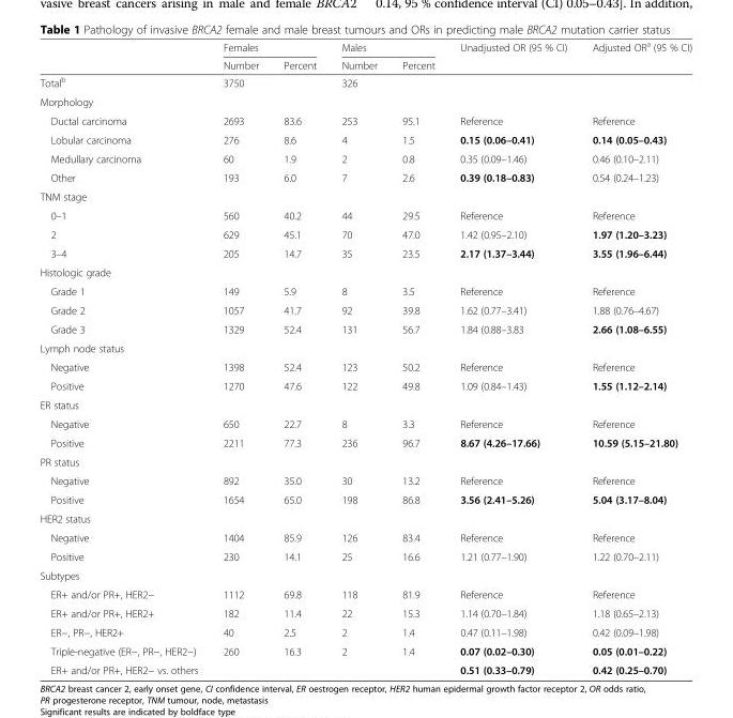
<table><thead><tr><td rowspan="2"></td><td colspan="2">Females</td><td colspan="2">Males</td><td rowspan="2">Unadjusted OR (95 % CI)</td><td rowspan="2">Adjusted OR<sup>a</sup> (95 % CI)</td></tr><tr><td>Number</td><td>Percent</td><td>Number</td><td>Percent</td></tr></thead><tbody><tr><td>Total<sup>b</sup></td><td>3750</td><td></td><td>326</td><td></td><td></td><td></td></tr><tr><td colspan="7">Morphology</td></tr><tr><td>Ductal carcinoma</td><td>2693</td><td>83.6</td><td>253</td><td>95.1</td><td>Reference</td><td>Reference</td></tr><tr><td>Lobular carcinoma</td><td>276</td><td>8.6</td><td>4</td><td>1.5</td><td>0.15 (0.06–0.41)</td><td>0.14 (0.05–0.43)</td></tr><tr><td>Medullary carcinoma</td><td>60</td><td>1.9</td><td>2</td><td>0.8</td><td>0.35 (0.09–1.46)</td><td>0.46 (0.10–2.11)</td></tr><tr><td>Other</td><td>193</td><td>6.0</td><td>7</td><td>2.6</td><td>0.39 (0.18–0.83)</td><td>0.54 (0.24–1.23)</td></tr><tr><td colspan="7">TNM stage</td></tr><tr><td>0–1</td><td>560</td><td>40.2</td><td>44</td><td>29.5</td><td>Reference</td><td>Reference</td></tr><tr><td>2</td><td>629</td><td>45.1</td><td>70</td><td>47.0</td><td>1.42 (0.95–2.10)</td><td>1.97 (1.20–3.23)</td></tr><tr><td>3–4</td><td>205</td><td>14.7</td><td>35</td><td>23.5</td><td>2.17 (1.37–3.44)</td><td>3.55 (1.96–6.44)</td></tr><tr><td colspan="7">Histologic grade</td></tr><tr><td>Grade 1</td><td>149</td><td>5.9</td><td>8</td><td>3.5</td><td>Reference</td><td>Reference</td></tr><tr><td>Grade 2</td><td>1057</td><td>41.7</td><td>92</td><td>39.8</td><td>1.62 (0.77–3.41)</td><td>1.88 (0.76–4.67)</td></tr><tr><td>Grade 3</td><td>1329</td><td>52.4</td><td>131</td><td>56.7</td><td>1.84 (0.88–3.83</td><td>2.66 (1.08–6.55)</td></tr><tr><td colspan="7">Lymph node status</td></tr><tr><td>Negative</td><td>1398</td><td>52.4</td><td>123</td><td>50.2</td><td>Reference</td><td>Reference</td></tr><tr><td>Positive</td><td>1270</td><td>47.6</td><td>122</td><td>49.8</td><td>1.09 (0.84–1.43)</td><td>1.55 (1.12–2.14)</td></tr><tr><td colspan="7">ER status</td></tr><tr><td>Negative</td><td>650</td><td>22.7</td><td>8</td><td>3.3</td><td>Reference</td><td>Reference</td></tr><tr><td>Positive</td><td>2211</td><td>77.3</td><td>236</td><td>96.7</td><td>8.67 (4.26–17.66)</td><td>10.59 (5.15–21.80)</td></tr><tr><td colspan="7">PR status</td></tr><tr><td>Negative</td><td>892</td><td>35.0</td><td>30</td><td>13.2</td><td>Reference</td><td>Reference</td></tr><tr><td>Positive</td><td>1654</td><td>65.0</td><td>198</td><td>86.8</td><td>3.56 (2.41–5.26)</td><td>5.04 (3.17–8.04)</td></tr><tr><td colspan="7">HER2 status</td></tr><tr><td>Negative</td><td>1404</td><td>85.9</td><td>126</td><td>83.4</td><td>Reference</td><td>Reference</td></tr><tr><td>Positive</td><td>230</td><td>14.1</td><td>25</td><td>16.6</td><td>1.21 (0.77–1.90)</td><td>1.22 (0.70–2.11)</td></tr><tr><td colspan="7">Subtypes</td></tr><tr><td>ER+ and/or PR+, HER2−</td><td>1112</td><td>69.8</td><td>118</td><td>81.9</td><td>Reference</td><td>Reference</td></tr><tr><td>ER+ and/or PR+, HER2+</td><td>182</td><td>11.4</td><td>22</td><td>15.3</td><td>1.14 (0.70–1.84)</td><td>1.18 (0.65–2.13)</td></tr><tr><td>ER−, PR−, HER2+</td><td>40</td><td>2.5</td><td>2</td><td>1.4</td><td>0.47 (0.11–1.98)</td><td>0.42 (0.09–1.98)</td></tr><tr><td>Triple-negative (ER−, PR−, HER2−)</td><td>260</td><td>16.3</td><td>2</td><td>1.4</td><td>0.07 (0.02–0.30)</td><td>0.05 (0.01–0.22)</td></tr><tr><td>ER+ and/or PR+, HER2− vs. others</td><td></td><td></td><td></td><td></td><td>0.51 (0.33–0.79)</td><td>0.42 (0.25–0.70)</td></tr></tbody></table>